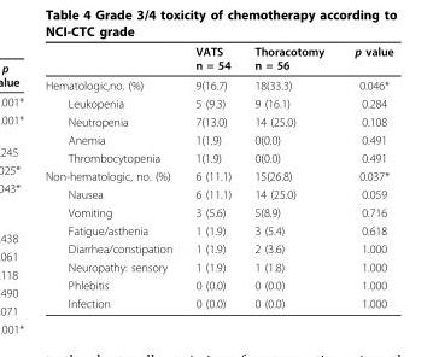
<table><thead><tr><td></td><td>VATS n = 54</td><td>Thoracotomy n = 56</td><td>p value</td></tr></thead><tbody><tr><td>Hematologic,no. (%)</td><td>9(16.7)</td><td>18(33.3)</td><td>0.046*</td></tr><tr><td>Leukopenia</td><td>5 (9.3)</td><td>9 (16.1)</td><td>0.284</td></tr><tr><td>Neutropenia</td><td>7(13.0)</td><td>14 (25.0)</td><td>0.108</td></tr><tr><td>Anemia</td><td>1(1.9)</td><td>0(0.0)</td><td>0.491</td></tr><tr><td>Thrombocytopenia</td><td>1(1.9)</td><td>0(0.0)</td><td>0.491</td></tr><tr><td>Non-hematologic, no. (%)</td><td>6 (11.1)</td><td>15(26.8)</td><td>0.037*</td></tr><tr><td>Nausea</td><td>6 (11.1)</td><td>14 (25.0)</td><td>0.059</td></tr><tr><td>Vomiting</td><td>3 (5.6)</td><td>5(8.9)</td><td>0.716</td></tr><tr><td>Fatigue/asthenia</td><td>1 (1.9)</td><td>3 (5.4)</td><td>0.618</td></tr><tr><td>Diarrhea/constipation</td><td>1 (1.9)</td><td>2 (3.6)</td><td>1.000</td></tr><tr><td>Neuropathy: sensory</td><td>1 (1.9)</td><td>1 (1.8)</td><td>1.000</td></tr><tr><td>Phlebitis</td><td>0 (0.0)</td><td>0 (0.0)</td><td>1.000</td></tr><tr><td>Infection</td><td>0 (0.0)</td><td>0 (0.0)</td><td>1.000</td></tr></tbody></table>